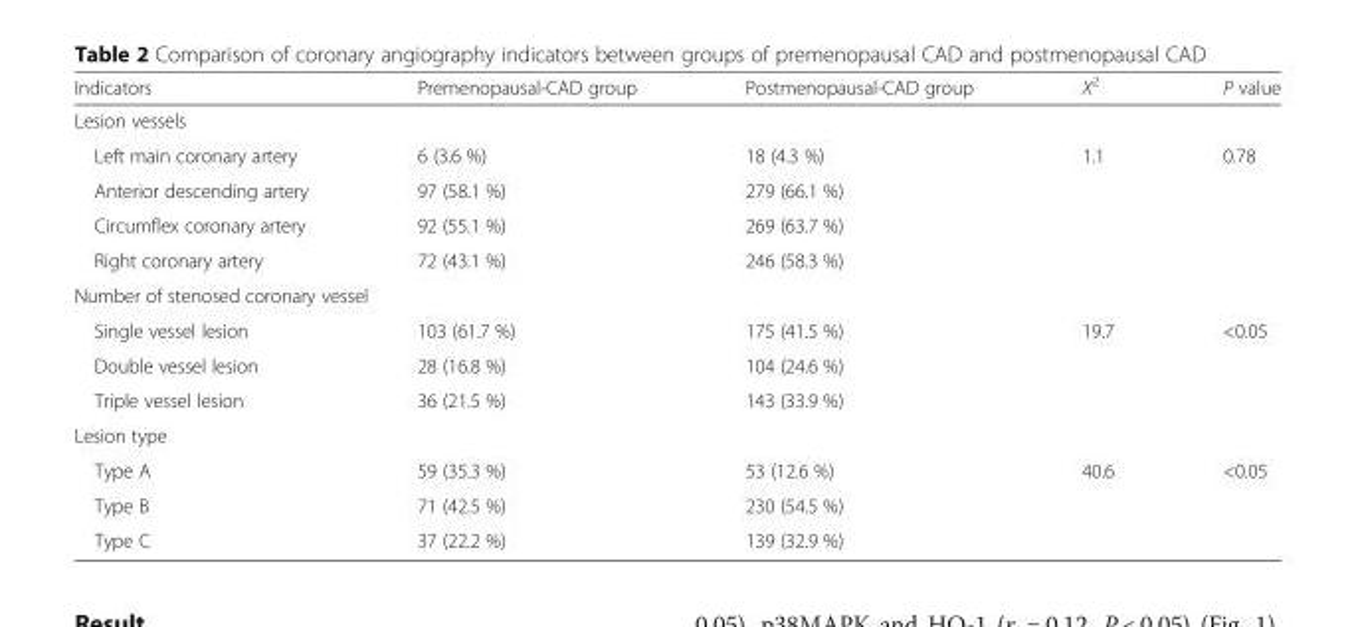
<table><thead><tr><td>Indicators</td><td>Premenopausal-CAD group</td><td>Postmenopausal-CAD group</td><td>X<sup>2</sup></td><td>P value</td></tr></thead><tbody><tr><td colspan="5">Lesion vessels</td></tr><tr><td>Left main coronary artery</td><td>6 (3.6 %)</td><td>18 (4.3 %)</td><td>1.1</td><td>0.78</td></tr><tr><td>Anterior descending artery</td><td>97 (58.1 %)</td><td>279 (66.1 %)</td><td></td><td></td></tr><tr><td>Circumflex coronary artery</td><td>92 (55.1 %)</td><td>269 (63.7 %)</td><td></td><td></td></tr><tr><td>Right coronary artery</td><td>72 (43.1 %)</td><td>246 (58.3 %)</td><td></td><td></td></tr><tr><td colspan="5">Number of stenosed coronary vessel</td></tr><tr><td>Single vessel lesion</td><td>103 (61.7 %)</td><td>175 (41.5 %)</td><td>19.7</td><td>&lt;0.05</td></tr><tr><td>Double vessel lesion</td><td>28 (16.8 %)</td><td>104 (24.6 %)</td><td></td><td></td></tr><tr><td>Triple vessel lesion</td><td>36 (21.5 %)</td><td>143 (33.9 %)</td><td></td><td></td></tr><tr><td colspan="5">Lesion type</td></tr><tr><td>Type A</td><td>59 (35.3 %)</td><td>53 (12.6 %)</td><td>40.6</td><td>&lt;0.05</td></tr><tr><td>Type B</td><td>71 (42.5 %)</td><td>230 (54.5 %)</td><td></td><td></td></tr><tr><td>Type C</td><td>37 (22.2 %)</td><td>139 (32.9 %)</td><td></td><td></td></tr></tbody></table>